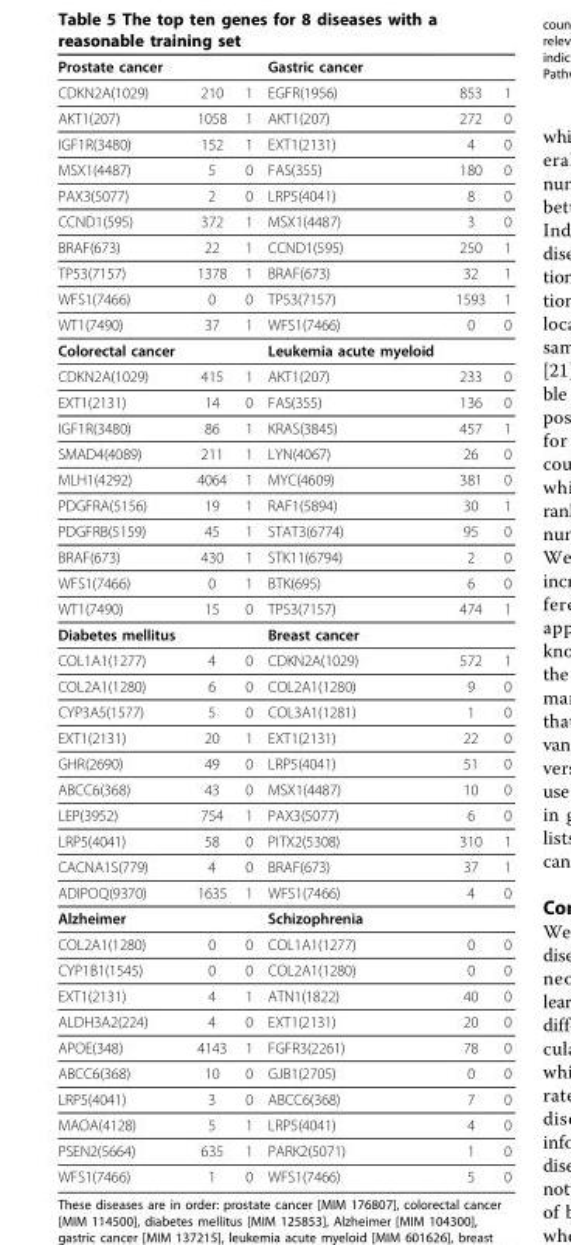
<table><thead><tr><td>Prostate cancer</td><td></td><td></td><td>Gastric cancer</td><td></td><td></td></tr></thead><tbody><tr><td>CDKN2A(1029)</td><td>210</td><td>1</td><td>EGFR(1956)</td><td>853</td><td>1</td></tr><tr><td>AKT1(207)</td><td>1058</td><td>1</td><td>AKT1(207)</td><td>272</td><td>0</td></tr><tr><td>IGF1R(3480)</td><td>152</td><td>1</td><td>EXT1(2131)</td><td>4</td><td>0</td></tr><tr><td>MSX1(4487)</td><td>5</td><td>0</td><td>FAS(355)</td><td>180</td><td>0</td></tr><tr><td>PAX3(5077)</td><td>2</td><td>0</td><td>LRP5(4041)</td><td>8</td><td>0</td></tr><tr><td>CCND1(595)</td><td>372</td><td>1</td><td>MSX1(4487)</td><td>3</td><td>0</td></tr><tr><td>BRAF(673)</td><td>22</td><td>1</td><td>CCND1(595)</td><td>250</td><td>1</td></tr><tr><td>TP53(7157)</td><td>1378</td><td>1</td><td>BRAF(673)</td><td>32</td><td>1</td></tr><tr><td>WFS1(7466)</td><td>0</td><td>0</td><td>TP53(7157)</td><td>1593</td><td>1</td></tr><tr><td>WT1(7490)</td><td>37</td><td>1</td><td>WFS1(7466)</td><td>0</td><td>0</td></tr><tr><td>Colorectal cancer</td><td></td><td></td><td>Leukemia acute myeloid</td><td></td><td></td></tr><tr><td>CDKN2A(1029)</td><td>415</td><td>1</td><td>AKT1(207)</td><td>233</td><td>0</td></tr><tr><td>EXT1(2131)</td><td>14</td><td>0</td><td>FAS(355)</td><td>136</td><td>0</td></tr><tr><td>IGF1R(3480)</td><td>86</td><td>1</td><td>KRAS(3845)</td><td>457</td><td>1</td></tr><tr><td>SMAD4(4089)</td><td>211</td><td>1</td><td>LYN(4067)</td><td>26</td><td>0</td></tr><tr><td>MLH1(4292)</td><td>4064</td><td>1</td><td>MYC(4609)</td><td>381</td><td>0</td></tr><tr><td>PDGFRA(5156)</td><td>19</td><td>1</td><td>RAF1(5894)</td><td>30</td><td>1</td></tr><tr><td>PDGFRB(5159)</td><td>45</td><td>1</td><td>STAT3(6774)</td><td>95</td><td>0</td></tr><tr><td>BRAF(673)</td><td>430</td><td>1</td><td>STK11(6794)</td><td>2</td><td>0</td></tr><tr><td>WFS1(7466)</td><td>0</td><td>1</td><td>BTK(695)</td><td>6</td><td>0</td></tr><tr><td>WT1(7490)</td><td>15</td><td>0</td><td>TP53(7157)</td><td>474</td><td>1</td></tr><tr><td>Diabetes mellitus</td><td></td><td></td><td>Breast cancer</td><td></td><td></td></tr><tr><td>COL1A1(1277)</td><td>4</td><td>0</td><td>CDKN2A(1029)</td><td>572</td><td>1</td></tr><tr><td>COL2A1(1280)</td><td>6</td><td>0</td><td>COL2A1(1280)</td><td>9</td><td>0</td></tr><tr><td>CYP3A5(1577)</td><td>5</td><td>0</td><td>COL3A1(1281)</td><td>1</td><td>0</td></tr><tr><td>EXT1(2131)</td><td>20</td><td>1</td><td>EXT1(2131)</td><td>22</td><td>0</td></tr><tr><td>GHR(2690)</td><td>49</td><td>0</td><td>LRP5(4041)</td><td>51</td><td>0</td></tr><tr><td>ABCC6(368)</td><td>43</td><td>0</td><td>MSX1(4487)</td><td>10</td><td>0</td></tr><tr><td>LEP(3952)</td><td>754</td><td>1</td><td>PAX3(5077)</td><td>6</td><td>0</td></tr><tr><td>LRP5(4041)</td><td>58</td><td>0</td><td>PITX2(5308)</td><td>310</td><td>1</td></tr><tr><td>CACNA1S(779)</td><td>4</td><td>0</td><td>BRAF(673)</td><td>37</td><td>1</td></tr><tr><td>ADIPOQ(9370)</td><td>1635</td><td>1</td><td>WFS1(7466)</td><td>4</td><td>0</td></tr><tr><td>Alzheimer</td><td></td><td></td><td>Schizophrenia</td><td></td><td></td></tr><tr><td>COL2A1(1280)</td><td>0</td><td>0</td><td>COL1A1(1277)</td><td>0</td><td>0</td></tr><tr><td>CYP1B1(1545)</td><td>0</td><td>0</td><td>COL2A1(1280)</td><td>0</td><td>0</td></tr><tr><td>EXT1(2131)</td><td>4</td><td>1</td><td>ATN1(1822)</td><td>40</td><td>0</td></tr><tr><td>ALDH3A2(224)</td><td>4</td><td>0</td><td>EXT1(2131)</td><td>20</td><td>0</td></tr><tr><td>APOE(348)</td><td>4143</td><td>1</td><td>FGFR3(2261)</td><td>78</td><td>0</td></tr><tr><td>ABCC6(368)</td><td>10</td><td>0</td><td>GJB1(2705)</td><td>0</td><td>0</td></tr><tr><td>LRP5(4041)</td><td>3</td><td>0</td><td>ABCC6(368)</td><td>7</td><td>0</td></tr><tr><td>MAOA(4128)</td><td>5</td><td>1</td><td>LRP5(4041)</td><td>4</td><td>0</td></tr><tr><td>PSEN2(5664)</td><td>635</td><td>1</td><td>PARK2(5071)</td><td>1</td><td>0</td></tr><tr><td>WFS1(7466)</td><td>1</td><td>0</td><td>WFS1(7466)</td><td>5</td><td>0</td></tr></tbody></table>